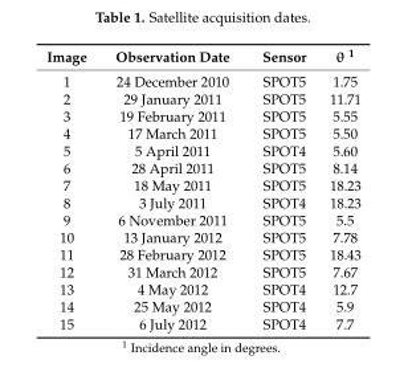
<table><thead><tr><td>Image</td><td>Observation Date</td><td>Sensor</td><td>θ <sup>1</sup></td></tr></thead><tbody><tr><td>1</td><td>24 December 2010</td><td>SPOT5</td><td>1.75</td></tr><tr><td>2</td><td>29 January 2011</td><td>SPOT5</td><td>11.71</td></tr><tr><td>3</td><td>19 February 2011</td><td>SPOT5</td><td>5.55</td></tr><tr><td>4</td><td>17 March 2011</td><td>SPOT5</td><td>5.50</td></tr><tr><td>5</td><td>5 April 2011</td><td>SPOT4</td><td>5.60</td></tr><tr><td>6</td><td>28 April 2011</td><td>SPOT5</td><td>8.14</td></tr><tr><td>7</td><td>18 May 2011</td><td>SPOT5</td><td>18.23</td></tr><tr><td>8</td><td>3 July 2011</td><td>SPOT4</td><td>18.23</td></tr><tr><td>9</td><td>6 November 2011</td><td>SPOT5</td><td>5.5</td></tr><tr><td>10</td><td>13 January 2012</td><td>SPOT5</td><td>7.78</td></tr><tr><td>11</td><td>28 February 2012</td><td>SPOT5</td><td>18.43</td></tr><tr><td>12</td><td>31 March 2012</td><td>SPOT5</td><td>7.67</td></tr><tr><td>13</td><td>4 May 2012</td><td>SPOT4</td><td>12.7</td></tr><tr><td>14</td><td>25 May 2012</td><td>SPOT4</td><td>5.9</td></tr><tr><td>15</td><td>6 July 2012</td><td>SPOT4</td><td>7.7</td></tr></tbody></table>